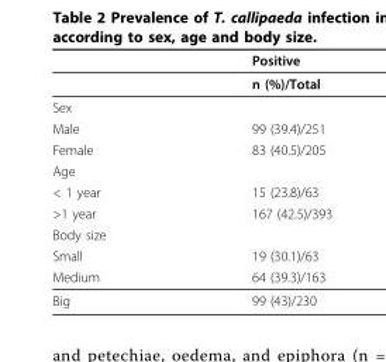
<table><thead><tr><td></td><td>Positive</td></tr></thead><tbody><tr><td></td><td>n (%)/Total</td></tr><tr><td colspan="2">Sex</td></tr><tr><td>Male</td><td>99 (39.4)/251</td></tr><tr><td>Female</td><td>83 (40.5)/205</td></tr><tr><td colspan="2">Age</td></tr><tr><td>&lt; 1 year</td><td>15 (23.8)/63</td></tr><tr><td>&gt;1 year</td><td>167 (42.5)/393</td></tr><tr><td colspan="2">Body size</td></tr><tr><td>Small</td><td>19 (30.1)/63</td></tr><tr><td>Medium</td><td>64 (39.3)/163</td></tr><tr><td>Big</td><td>99 (43)/230</td></tr></tbody></table>